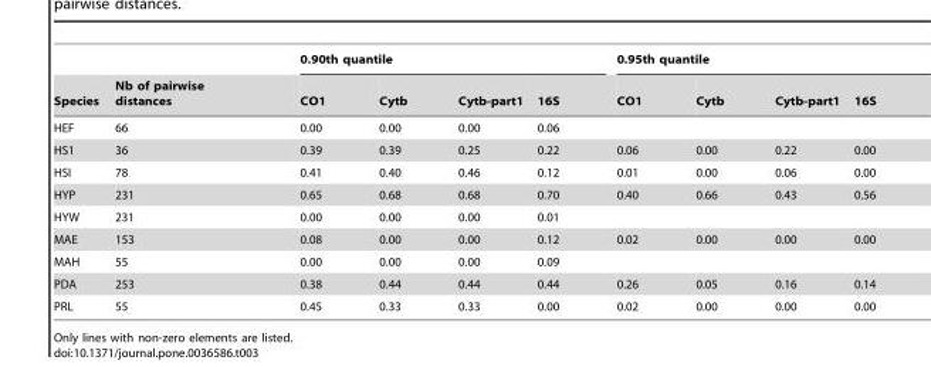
<table><thead><tr><td rowspan="2">Species</td><td rowspan="2">Nb of pairwise distances</td><td colspan="4">0.90th quantile</td><td colspan="4">0.95th quantile</td></tr><tr><td>CO1</td><td>Cytb</td><td>Cytb-part1</td><td>16S</td><td>CO1</td><td>Cytb</td><td>Cytb-part1</td><td>16S</td></tr></thead><tbody><tr><td>HEF</td><td>66</td><td>0.00</td><td>0.00</td><td>0.00</td><td>0.06</td><td></td><td></td><td></td><td></td></tr><tr><td>HS1</td><td>36</td><td>0.39</td><td>0.39</td><td>0.25</td><td>0.22</td><td>0.06</td><td>0.00</td><td>0.22</td><td>0.00</td></tr><tr><td>HSI</td><td>78</td><td>0.41</td><td>0.40</td><td>0.46</td><td>0.12</td><td>0.01</td><td>0.00</td><td>0.06</td><td>0.00</td></tr><tr><td>HYP</td><td>231</td><td>0.65</td><td>0.68</td><td>0.68</td><td>0.70</td><td>0.40</td><td>0.66</td><td>0.43</td><td>0.56</td></tr><tr><td>HYW</td><td>231</td><td>0.00</td><td>0.00</td><td>0.00</td><td>0.01</td><td></td><td></td><td></td><td></td></tr><tr><td>MAE</td><td>153</td><td>0.08</td><td>0.00</td><td>0.00</td><td>0.12</td><td>0.02</td><td>0.00</td><td>0.00</td><td>0.00</td></tr><tr><td>MAH</td><td>55</td><td>0.00</td><td>0.00</td><td>0.00</td><td>0.09</td><td></td><td></td><td></td><td></td></tr><tr><td>PDA</td><td>253</td><td>0.38</td><td>0.44</td><td>0.44</td><td>0.44</td><td>0.26</td><td>0.05</td><td>0.16</td><td>0.14</td></tr><tr><td>PRL</td><td>55</td><td>0.45</td><td>0.33</td><td>0.33</td><td>0.00</td><td>0.02</td><td>0.00</td><td>0.00</td><td>0.00</td></tr></tbody></table>